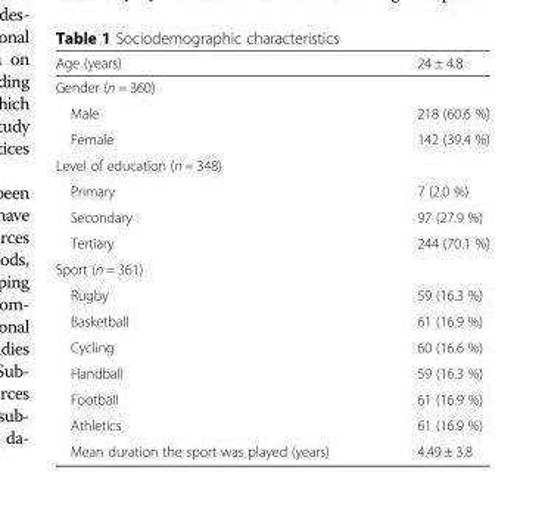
<table><thead><tr><td>Age (years)</td><td>24 ± 4.8</td></tr></thead><tbody><tr><td colspan="2">Gender (n = 360)</td></tr><tr><td>Male</td><td>218 (60.6 %)</td></tr><tr><td>Female</td><td>142 (39.4 %)</td></tr><tr><td colspan="2">Level of education (n = 348)</td></tr><tr><td>Primary</td><td>7 (2.0 %)</td></tr><tr><td>Secondary</td><td>97 (27.9 %)</td></tr><tr><td>Tertiary</td><td>244 (70.1 %)</td></tr><tr><td colspan="2">Sport (n = 361)</td></tr><tr><td>Rugby</td><td>59 (16.3 %)</td></tr><tr><td>Basketball</td><td>61 (16.9 %)</td></tr><tr><td>Cycling</td><td>60 (16.6 %)</td></tr><tr><td>Handball</td><td>59 (16.3 %)</td></tr><tr><td>Football</td><td>61 (16.9 %)</td></tr><tr><td>Athletics</td><td>61 (16.9 %)</td></tr><tr><td>Mean duration the sport was played (years)</td><td>4.49 ± 3.8</td></tr></tbody></table>